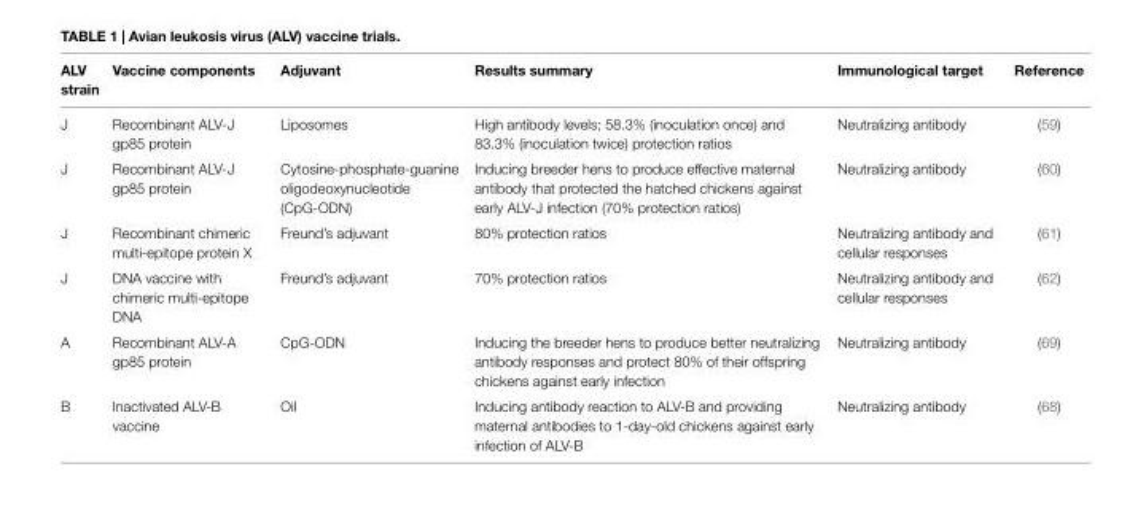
<table><thead><tr><td>ALv strain</td><td>vaccine components</td><td>Adjuvant</td><td>Results summary</td><td>immunological target</td><td>Reference</td></tr></thead><tbody><tr><td>J</td><td>Recombinant ALV-J gp85 protein</td><td>Liposomes</td><td>High antibody levels; 58.3% (inoculation once) and 83.3% (inoculation twice) protection ratios</td><td>Neutralizing antibody</td><td>(59)</td></tr><tr><td>J</td><td>Recombinant ALV-J gp85 protein</td><td>Cytosine-phosphate-guanine oligodeoxynucleotide (CpG-ODN)</td><td>Inducing breeder hens to produce effective maternal antibody that protected the hatched chickens against early ALV-J infection (70% protection ratios)</td><td>Neutralizing antibody</td><td>(60)</td></tr><tr><td>J</td><td>Recombinant chimeric multi-epitope protein X</td><td>Freund’s adjuvant</td><td>80% protection ratios</td><td>Neutralizing antibody and cellular responses</td><td>(61)</td></tr><tr><td>J</td><td>DNA vaccine with chimeric multi-epitope DNA</td><td>Freund’s adjuvant</td><td>70% protection ratios</td><td>Neutralizing antibody and cellular responses</td><td>(62)</td></tr><tr><td>A</td><td>Recombinant ALV-A gp85 protein</td><td>CpG-ODN</td><td>Inducing the breeder hens to produce better neutralizing antibody responses and protect 80% of their offspring chickens against early infection</td><td>Neutralizing antibody</td><td>(69)</td></tr><tr><td>B</td><td>Inactivated ALV-B vaccine</td><td>Oil</td><td>Inducing antibody reaction to ALV-B and providing maternal antibodies to 1-day-old chickens against early infection of ALV-B</td><td>Neutralizing antibody</td><td>(68)</td></tr></tbody></table>